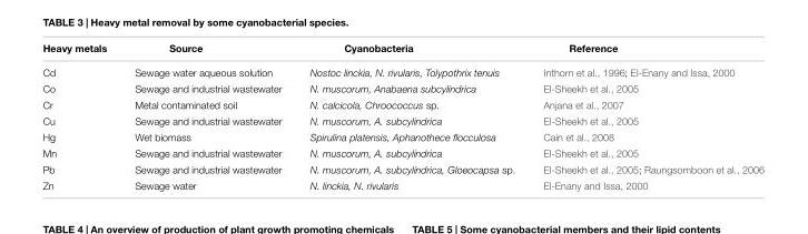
<table><thead><tr><td>Heavy metals</td><td>Source</td><td>Cyanobacteria</td><td>Reference</td></tr></thead><tbody><tr><td>Cd</td><td>Sewage water aqueous solution</td><td>Nostoc linckia, N. rivularis, Tolypothrix tenuis</td><td>Inthorn et al., 1996; El-Enany and Issa, 2000</td></tr><tr><td>Co</td><td>Sewage and industrial wastewater</td><td>N. muscorum, Anabaena subcylindrica</td><td>El-Sheekh et al., 2005</td></tr><tr><td>Cr</td><td>Metal contaminated soil</td><td>N. calcicola, Chroococcus sp.</td><td>Anjana et al., 2007</td></tr><tr><td>Cu</td><td>Sewage and industrial wastewater</td><td>N. muscorum, A. subcylindrica</td><td>El-Sheekh et al., 2005</td></tr><tr><td>Hg</td><td>Wet biomass</td><td>Spirulina platensis, Aphanothece flocculosa</td><td>Cain et al., 2008</td></tr><tr><td>Mn</td><td>Sewage and industrial wastewater</td><td>N. muscorum, A. subcylindrica</td><td>El-Sheekh et al., 2005</td></tr><tr><td>Pb</td><td>Sewage and industrial wastewater</td><td>N. muscorum, A. subcylindrica, Gloeocapsa sp.</td><td>El-Sheekh et al., 2005; Raungsomboon et al., 2006</td></tr><tr><td>Zn</td><td>Sewage water</td><td>N. linckia, N. rivularis</td><td>El-Enany and Issa, 2000</td></tr></tbody></table>